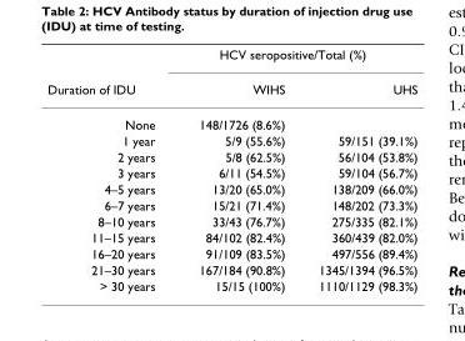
<table><thead><tr><td rowspan="2">Duration of IDU</td><td colspan="2">HCV seropositive/Total (%)</td></tr><tr><td>WIHS</td><td>UHS</td></tr></thead><tbody><tr><td>None</td><td>148/1726 (8.6%)</td><td></td></tr><tr><td>1 year</td><td>5/9 (55.6%)</td><td>59/151 (39.1%)</td></tr><tr><td>2 years</td><td>5/8 (62.5%)</td><td>56/104 (53.8%)</td></tr><tr><td>3 years</td><td>6/11 (54.5%)</td><td>59/104 (56.7%)</td></tr><tr><td>4–5 years</td><td>13/20 (65.0%)</td><td>138/209 (66.0%)</td></tr><tr><td>6–7 years</td><td>15/21 (71.4%)</td><td>148/202 (73.3%)</td></tr><tr><td>8–10 years</td><td>33/43 (76.7%)</td><td>275/335 (82.1%)</td></tr><tr><td>11–15 years</td><td>84/102 (82.4%)</td><td>360/439 (82.0%)</td></tr><tr><td>16–20 years</td><td>91/109 (83.5%)</td><td>497/556 (89.4%)</td></tr><tr><td>21–30 years</td><td>167/184 (90.8%)</td><td>1345/1394 (96.5%)</td></tr><tr><td>&gt; 30 years</td><td>15/15 (100%)</td><td>1110/1129 (98.3%)</td></tr></tbody></table>